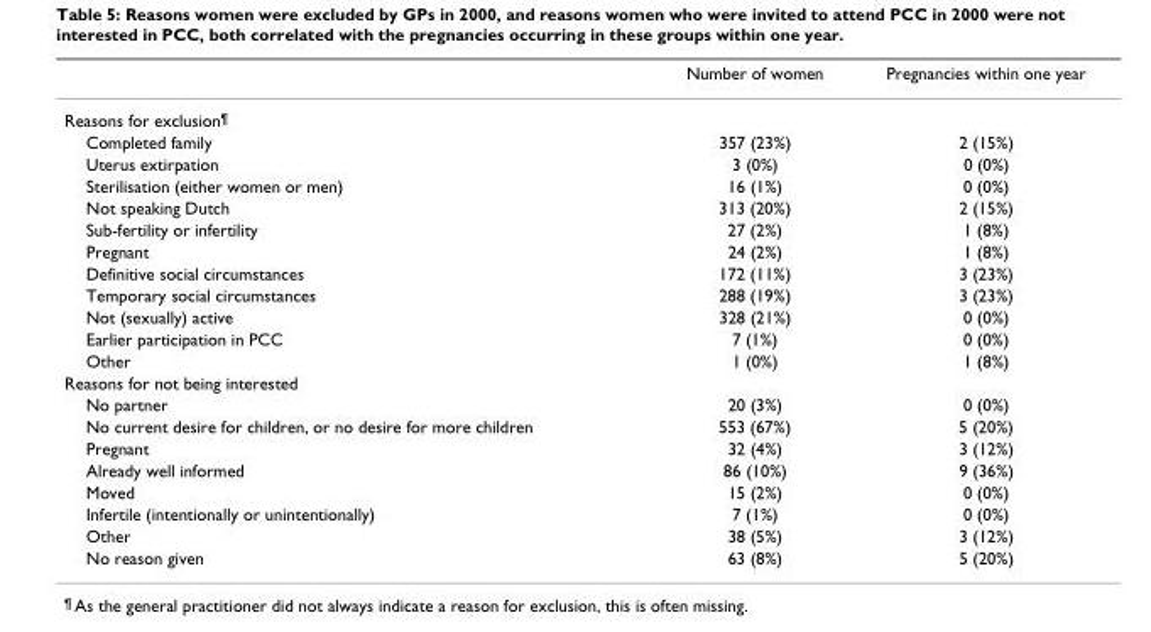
<table><thead><tr><td></td><td>Number of women</td><td>Pregnancies within one year</td></tr></thead><tbody><tr><td colspan="3">Reasons for exclusion<sup>¶</sup></td></tr><tr><td>Completed family</td><td>357 (23%)</td><td>2 (15%)</td></tr><tr><td>Uterus extirpation</td><td>3 (0%)</td><td>0 (0%)</td></tr><tr><td>Sterilisation (either women or men)</td><td>16 (1%)</td><td>0 (0%)</td></tr><tr><td>Not speaking Dutch</td><td>313 (20%)</td><td>2 (15%)</td></tr><tr><td>Sub-fertility or infertility</td><td>27 (2%)</td><td>1 (8%)</td></tr><tr><td>Pregnant</td><td>24 (2%)</td><td>1 (8%)</td></tr><tr><td>Definitive social circumstances</td><td>172 (11%)</td><td>3 (23%)</td></tr><tr><td>Temporary social circumstances</td><td>288 (19%)</td><td>3 (23%)</td></tr><tr><td>Not (sexually) active</td><td>328 (21%)</td><td>0 (0%)</td></tr><tr><td>Earlier participation in PCC</td><td>7 (1%)</td><td>0 (0%)</td></tr><tr><td>Other</td><td>1 (0%)</td><td>1 (8%)</td></tr><tr><td colspan="3">Reasons for not being interested</td></tr><tr><td>No partner</td><td>20 (3%)</td><td>0 (0%)</td></tr><tr><td>No current desire for children, or no desire for more children</td><td>553 (67%)</td><td>5 (20%)</td></tr><tr><td>Pregnant</td><td>32 (4%)</td><td>3 (12%)</td></tr><tr><td>Already well informed</td><td>86 (10%)</td><td>9 (36%)</td></tr><tr><td>Moved</td><td>15 (2%)</td><td>0 (0%)</td></tr><tr><td>Infertile (intentionally or unintentionally)</td><td>7 (1%)</td><td>0 (0%)</td></tr><tr><td>Other</td><td>38 (5%)</td><td>3 (12%)</td></tr><tr><td>No reason given</td><td>63 (8%)</td><td>5 (20%)</td></tr></tbody></table>